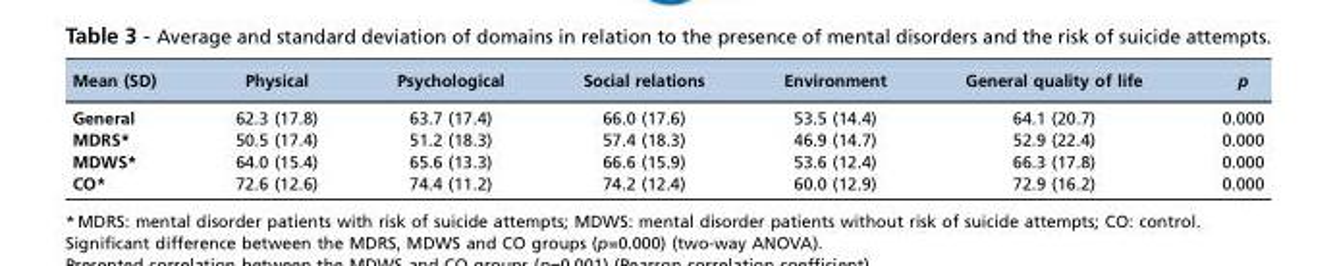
<table><thead><tr><td>Mean (SD)</td><td>Physical</td><td>Psychological</td><td>Social relations</td><td>Environment</td><td>General quality of life</td><td>p</td></tr></thead><tbody><tr><td>General</td><td>62.3 (17.8)</td><td>63.7 (17.4)</td><td>66.0 (17.6)</td><td>53.5 (14.4)</td><td>64.1 (20.7)</td><td>0.000</td></tr><tr><td>MDRS*</td><td>50.5 (17.4)</td><td>51.2 (18.3)</td><td>57.4 (18.3)</td><td>46.9 (14.7)</td><td>52.9 (22.4)</td><td>0.000</td></tr><tr><td>MDWS*</td><td>64.0 (15.4)</td><td>65.6 (13.3)</td><td>66.6 (15.9)</td><td>53.6 (12.4)</td><td>66.3 (17.8)</td><td>0.000</td></tr><tr><td>CO*</td><td>72.6 (12.6)</td><td>74.4 (11.2)</td><td>74.2 (12.4)</td><td>60.0 (12.9)</td><td>72.9 (16.2)</td><td>0.000</td></tr></tbody></table>